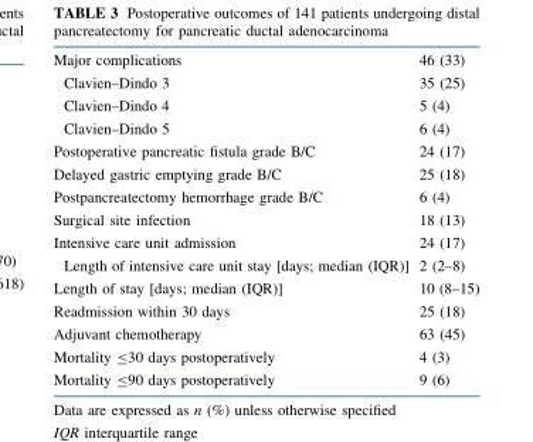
<table><tbody><tr><td>Major complications</td><td>46 (33)</td></tr><tr><td>Clavien–Dindo 3</td><td>35 (25)</td></tr><tr><td>Clavien–Dindo 4</td><td>5 (4)</td></tr><tr><td>Clavien–Dindo 5</td><td>6 (4)</td></tr><tr><td>Postoperative pancreatic fistula grade B/C</td><td>24 (17)</td></tr><tr><td>Delayed gastric emptying grade B/C</td><td>25 (18)</td></tr><tr><td>Postpancreatectomy hemorrhage grade B/C</td><td>6 (4)</td></tr><tr><td>Surgical site infection</td><td>18 (13)</td></tr><tr><td>Intensive care unit admission</td><td>24 (17)</td></tr><tr><td>Length of intensive care unit stay [days; median (IQR)]</td><td>2 (2–8)</td></tr><tr><td>Length of stay [days; median (IQR)]</td><td>10 (8–15)</td></tr><tr><td>Readmission within 30 days</td><td>25 (18)</td></tr><tr><td>Adjuvant chemotherapy</td><td>63 (45)</td></tr><tr><td>Mortality ≤30 days postoperatively</td><td>4 (3)</td></tr><tr><td>Mortality ≤90 days postoperatively</td><td>9 (6)</td></tr></tbody></table>